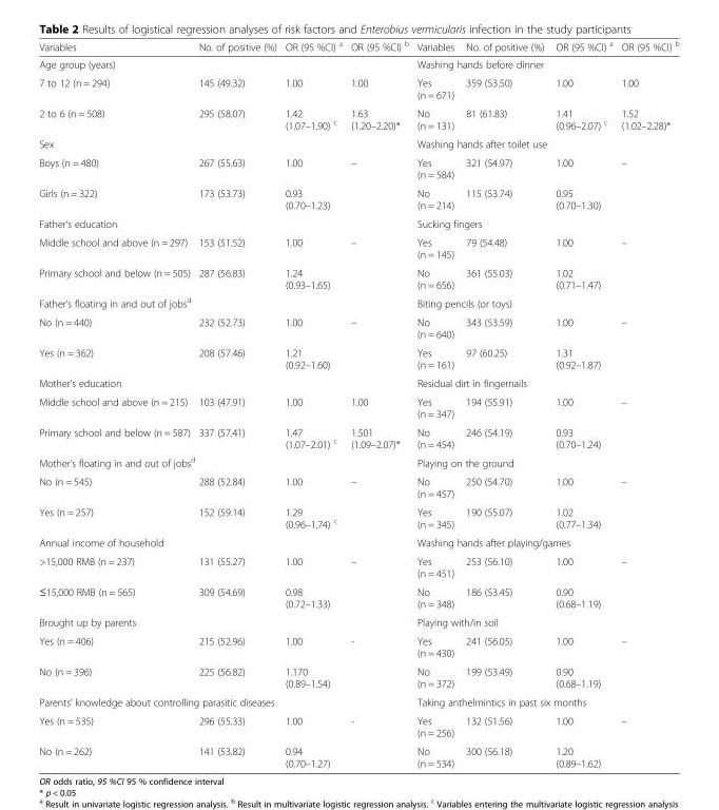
<table><thead><tr><td>Variables</td><td>No. of positive (%)</td><td>OR (95 %CI) <sup>a</sup></td><td>OR (95 %CI) <sup>b</sup></td><td>Variables</td><td>No. of positive (%)</td><td>OR (95 %CI) <sup>a</sup></td><td>OR (95 %CI) <sup>b</sup></td></tr></thead><tbody><tr><td colspan="2">Age group (years)</td><td></td><td></td><td colspan="4">Washing hands before dinner</td></tr><tr><td>7 to 12 (n = 294)</td><td>145 (49.32)</td><td>1.00</td><td>1.00</td><td>Yes (n = 671)</td><td>359 (53.50)</td><td>1.00</td><td>1.00</td></tr><tr><td>2 to 6 (n = 508)</td><td>295 (58.07)</td><td>1.42 (1.07–1.90) <sup>c</sup></td><td>1.63 (1.20–2.20)*</td><td>No (n = 131)</td><td>81 (61.83)</td><td>1.41 (0.96–2.07) <sup>c</sup></td><td>1.52 (1.02–2.28)*</td></tr><tr><td>Sex</td><td></td><td></td><td></td><td colspan="2">Washing hands after toilet use</td><td></td><td></td></tr><tr><td>Boys (n = 480)</td><td>267 (55.63)</td><td>1.00</td><td rowspan="2">–</td><td>Yes (n = 584)</td><td>321 (54.97)</td><td>1.00</td><td rowspan="2">–</td></tr><tr><td>Girls (n = 322)</td><td>173 (53.73)</td><td>0.93 (0.70–1.23)</td><td>No (n = 214)</td><td>115 (53.74)</td><td>0.95 (0.70–1.30)</td></tr><tr><td colspan="2">Father’s education</td><td></td><td></td><td colspan="2">Sucking fingers</td><td></td><td></td></tr><tr><td>Middle school and above (n = 297)</td><td>153 (51.52)</td><td>1.00</td><td rowspan="2">–</td><td>Yes (n = 145)</td><td>79 (54.48)</td><td>1.00</td><td rowspan="2">–</td></tr><tr><td>Primary school and below (n = 505)</td><td>287 (56.83)</td><td>1.24 (0.93–1.65)</td><td>No (n = 656)</td><td>361 (55.03)</td><td>1.02 (0.71–1.47)</td></tr><tr><td colspan="3">Father’s floating in and out of jobs<sup>d</sup></td><td></td><td colspan="2">Biting pencils (or toys)</td><td></td><td></td></tr><tr><td>No (n = 440)</td><td>232 (52.73)</td><td>1.00</td><td rowspan="2">–</td><td>No (n = 640)</td><td>343 (53.59)</td><td>1.00</td><td rowspan="2">–</td></tr><tr><td>Yes (n = 362)</td><td>208 (57.46)</td><td>1.21 (0.92–1.60)</td><td>Yes (n = 161)</td><td>97 (60.25)</td><td>1.31 (0.92–1.87)</td></tr><tr><td colspan="2">Mother’s education</td><td></td><td></td><td colspan="2">Residual dirt in fingernails</td><td></td><td></td></tr><tr><td>Middle school and above (n = 215)</td><td>103 (47.91)</td><td>1.00</td><td>1.00</td><td>Yes (n = 347)</td><td>194 (55.91)</td><td>1.00</td><td rowspan="2">–</td></tr><tr><td>Primary school and below (n = 587)</td><td>337 (57.41)</td><td>1.47 (1.07–2.01) <sup>c</sup></td><td>1.501 (1.09–2.07)*</td><td>No (n = 454)</td><td>246 (54.19)</td><td>0.93 (0.70–1.24)</td></tr><tr><td colspan="3">Mother’s floating in and out of jobs<sup>d</sup></td><td></td><td colspan="2">Playing on the ground</td><td></td><td></td></tr><tr><td>No (n = 545)</td><td>288 (52.84)</td><td>1.00</td><td rowspan="2">–</td><td>No (n = 457)</td><td>250 (54.70)</td><td>1.00</td><td rowspan="2">–</td></tr><tr><td>Yes (n = 257)</td><td>152 (59.14)</td><td>1.29 (0.96–1.74) <sup>c</sup></td><td>Yes (n = 345)</td><td>190 (55.07)</td><td>1.02 (0.77–1.34)</td></tr><tr><td colspan="3">Annual income of household</td><td></td><td colspan="3">Washing hands after playing/games</td><td></td></tr><tr><td>&gt;15,000 RMB (n = 237)</td><td>131 (55.27)</td><td>1.00</td><td rowspan="2">–</td><td>Yes (n = 451)</td><td>253 (56.10)</td><td>1.00</td><td rowspan="2">–</td></tr><tr><td>≤15,000 RMB (n = 565)</td><td>309 (54.69)</td><td>0.98 (0.72–1.33)</td><td>No (n = 348)</td><td>186 (53.45)</td><td>0.90 (0.68–1.19)</td></tr><tr><td colspan="3">Brought up by parents</td><td></td><td colspan="2">Playing with/in soil</td><td></td><td></td></tr><tr><td>Yes (n = 406)</td><td>215 (52.96)</td><td>1.00</td><td rowspan="2">-</td><td>Yes (n = 430)</td><td>241 (56.05)</td><td>1.00</td><td rowspan="2">–</td></tr><tr><td>No (n = 396)</td><td>225 (56.82)</td><td>1.170 (0.89–1.54)</td><td>No (n = 372)</td><td>199 (53.49)</td><td>0.90 (0.68–1.19)</td></tr><tr><td colspan="4">Parents‘ knowledge about controlling parasitic diseases</td><td colspan="4">Taking anthelmintics in past six months</td></tr><tr><td>Yes (n = 535)</td><td>296 (55.33)</td><td>1.00</td><td rowspan="2">-</td><td>Yes (n = 256)</td><td>132 (51.56)</td><td>1.00</td><td rowspan="2">–</td></tr><tr><td>No (n = 262)</td><td>141 (53.82)</td><td>0.94 (0.70–1.27)</td><td>No (n = 534)</td><td>300 (56.18)</td><td>1.20 (0.89–1.62)</td></tr></tbody></table>